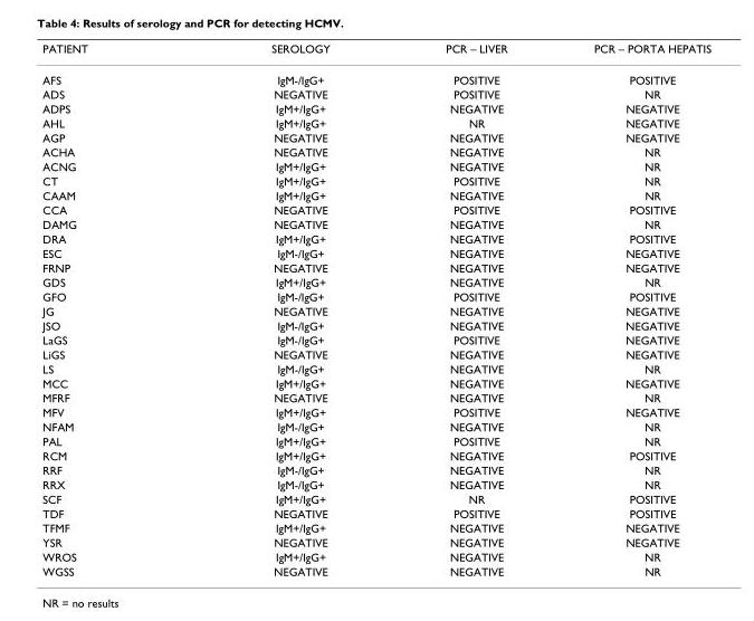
<table><thead><tr><td>PATIENT</td><td>SEROLOGY</td><td>PCR – LIVER</td><td>PCR – PORTA HEPATIS</td></tr></thead><tbody><tr><td>AFS</td><td>IgM-/IgG+</td><td>POSITIVE</td><td>POSITIVE</td></tr><tr><td>ADS</td><td>NEGATIVE</td><td>POSITIVE</td><td>NR</td></tr><tr><td>ADPS</td><td>IgM+/IgG+</td><td>NEGATIVE</td><td>NEGATIVE</td></tr><tr><td>AHL</td><td>IgM+/IgG+</td><td>NR</td><td>NEGATIVE</td></tr><tr><td>AGP</td><td>NEGATIVE</td><td>NEGATIVE</td><td>NEGATIVE</td></tr><tr><td>ACHA</td><td>NEGATIVE</td><td>NEGATIVE</td><td>NR</td></tr><tr><td>ACNG</td><td>IgM+/IgG+</td><td>NEGATIVE</td><td>NR</td></tr><tr><td>CT</td><td>IgM+/IgG+</td><td>POSITIVE</td><td>NR</td></tr><tr><td>CAAM</td><td>IgM+/IgG+</td><td>NEGATIVE</td><td>NR</td></tr><tr><td>CCA</td><td>NEGATIVE</td><td>POSITIVE</td><td>POSITIVE</td></tr><tr><td>DAMG</td><td>NEGATIVE</td><td>NEGATIVE</td><td>NR</td></tr><tr><td>DRA</td><td>IgM+/IgG+</td><td>NEGATIVE</td><td>POSITIVE</td></tr><tr><td>ESC</td><td>IgM-/IgG+</td><td>NEGATIVE</td><td>NEGATIVE</td></tr><tr><td>FRNP</td><td>NEGATIVE</td><td>NEGATIVE</td><td>NEGATIVE</td></tr><tr><td>GDS</td><td>IgM+/IgG+</td><td>NEGATIVE</td><td>NR</td></tr><tr><td>GFO</td><td>IgM-/IgG+</td><td>POSITIVE</td><td>POSITIVE</td></tr><tr><td>JG</td><td>NEGATIVE</td><td>NEGATIVE</td><td>NEGATIVE</td></tr><tr><td>JSO</td><td>IgM-/IgG+</td><td>NEGATIVE</td><td>NEGATIVE</td></tr><tr><td>LaGS</td><td>IgM-/IgG+</td><td>POSITIVE</td><td>NEGATIVE</td></tr><tr><td>LiGS</td><td>NEGATIVE</td><td>NEGATIVE</td><td>NEGATIVE</td></tr><tr><td>LS</td><td>IgM-/IgG+</td><td>NEGATIVE</td><td>NR</td></tr><tr><td>MCC</td><td>IgM+/IgG+</td><td>NEGATIVE</td><td>NEGATIVE</td></tr><tr><td>MFRF</td><td>NEGATIVE</td><td>NEGATIVE</td><td>NR</td></tr><tr><td>MFV</td><td>IgM+/IgG+</td><td>POSITIVE</td><td>NEGATIVE</td></tr><tr><td>NFAM</td><td>IgM-/IgG+</td><td>NEGATIVE</td><td>NR</td></tr><tr><td>PAL</td><td>IgM+/IgG+</td><td>POSITIVE</td><td>NR</td></tr><tr><td>RCM</td><td>IgM+/IgG+</td><td>NEGATIVE</td><td>POSITIVE</td></tr><tr><td>RRF</td><td>IgM-/IgG+</td><td>NEGATIVE</td><td>NR</td></tr><tr><td>RRX</td><td>IgM-/IgG+</td><td>NEGATIVE</td><td>NR</td></tr><tr><td>SCF</td><td>IgM+/IgG+</td><td>NR</td><td>POSITIVE</td></tr><tr><td>TDF</td><td>NEGATIVE</td><td>POSITIVE</td><td>POSITIVE</td></tr><tr><td>TFMF</td><td>IgM+/IgG+</td><td>NEGATIVE</td><td>NEGATIVE</td></tr><tr><td>YSR</td><td>NEGATIVE</td><td>NEGATIVE</td><td>NEGATIVE</td></tr><tr><td>WROS</td><td>IgM+/IgG+</td><td>NEGATIVE</td><td>NR</td></tr><tr><td>WGSS</td><td>NEGATIVE</td><td>NEGATIVE</td><td>NR</td></tr></tbody></table>